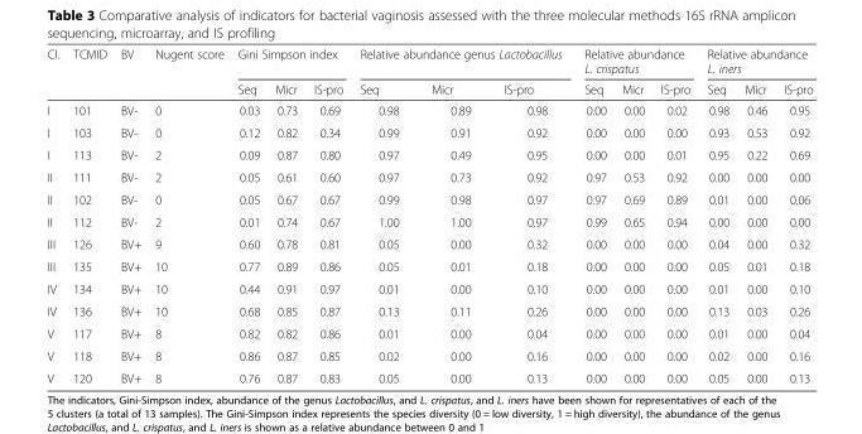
<table><thead><tr><td rowspan="2">Cl.</td><td rowspan="2">TCMID</td><td rowspan="2">BV</td><td rowspan="2">Nugent score</td><td colspan="3">Gini Simpson index</td><td colspan="3">Relative abundance genus Lactobacillus</td><td colspan="3">Relative abundance L. crispatus</td><td colspan="3">Relative abundance L. iners</td></tr><tr><td>Seq</td><td>Micr</td><td>IS-pro</td><td>Seq</td><td>Micr</td><td>IS-pro</td><td>Seq</td><td>Micr</td><td>IS-pro</td><td>Seq</td><td>Micr</td><td>IS-pro</td></tr></thead><tbody><tr><td>I</td><td>101</td><td>BV-</td><td>0</td><td>0.03</td><td>0.73</td><td>0.69</td><td>0.98</td><td>0.89</td><td>0.98</td><td>0.00</td><td>0.00</td><td>0.02</td><td>0.98</td><td>0.46</td><td>0.95</td></tr><tr><td>I</td><td>103</td><td>BV-</td><td>0</td><td>0.12</td><td>0.82</td><td>0.34</td><td>0.99</td><td>0.91</td><td>0.92</td><td>0.00</td><td>0.00</td><td>0.00</td><td>0.93</td><td>0.53</td><td>0.92</td></tr><tr><td>I</td><td>113</td><td>BV-</td><td>2</td><td>0.09</td><td>0.87</td><td>0.80</td><td>0.97</td><td>0.49</td><td>0.95</td><td>0.00</td><td>0.00</td><td>0.01</td><td>0.95</td><td>0.22</td><td>0.69</td></tr><tr><td>II</td><td>111</td><td>BV-</td><td>2</td><td>0.05</td><td>0.61</td><td>0.60</td><td>0.97</td><td>0.73</td><td>0.92</td><td>0.97</td><td>0.53</td><td>0.92</td><td>0.00</td><td>0.00</td><td>0.00</td></tr><tr><td>II</td><td>102</td><td>BV-</td><td>0</td><td>0.05</td><td>0.67</td><td>0.67</td><td>0.99</td><td>0.98</td><td>0.97</td><td>0.97</td><td>0.69</td><td>0.89</td><td>0.01</td><td>0.00</td><td>0.06</td></tr><tr><td>II</td><td>112</td><td>BV-</td><td>2</td><td>0.01</td><td>0.74</td><td>0.67</td><td>1.00</td><td>1.00</td><td>0.97</td><td>0.99</td><td>0.65</td><td>0.94</td><td>0.00</td><td>0.00</td><td>0.00</td></tr><tr><td>III</td><td>126</td><td>BV+</td><td>9</td><td>0.60</td><td>0.78</td><td>0.81</td><td>0.05</td><td>0.00</td><td>0.32</td><td>0.00</td><td>0.00</td><td>0.00</td><td>0.04</td><td>0.00</td><td>0.32</td></tr><tr><td>III</td><td>135</td><td>BV+</td><td>10</td><td>0.77</td><td>0.89</td><td>0.86</td><td>0.05</td><td>0.01</td><td>0.18</td><td>0.00</td><td>0.00</td><td>0.00</td><td>0.05</td><td>0.01</td><td>0.18</td></tr><tr><td>IV</td><td>134</td><td>BV+</td><td>10</td><td>0.44</td><td>0.91</td><td>0.97</td><td>0.01</td><td>0.00</td><td>0.10</td><td>0.00</td><td>0.00</td><td>0.00</td><td>0.01</td><td>0.00</td><td>0.10</td></tr><tr><td>IV</td><td>136</td><td>BV+</td><td>10</td><td>0.68</td><td>0.85</td><td>0.87</td><td>0.13</td><td>0.11</td><td>0.26</td><td>0.00</td><td>0.00</td><td>0.00</td><td>0.13</td><td>0.03</td><td>0.26</td></tr><tr><td>V</td><td>117</td><td>BV+</td><td>8</td><td>0.82</td><td>0.82</td><td>0.86</td><td>0.01</td><td>0.00</td><td>0.04</td><td>0.00</td><td>0.00</td><td>0.00</td><td>0.01</td><td>0.00</td><td>0.04</td></tr><tr><td>V</td><td>118</td><td>BV+</td><td>8</td><td>0.86</td><td>0.87</td><td>0.85</td><td>0.02</td><td>0.00</td><td>0.16</td><td>0.00</td><td>0.00</td><td>0.00</td><td>0.02</td><td>0.00</td><td>0.16</td></tr><tr><td>V</td><td>120</td><td>BV+</td><td>8</td><td>0.76</td><td>0.87</td><td>0.83</td><td>0.05</td><td>0.00</td><td>0.13</td><td>0.00</td><td>0.00</td><td>0.00</td><td>0.05</td><td>0.00</td><td>0.13</td></tr></tbody></table>